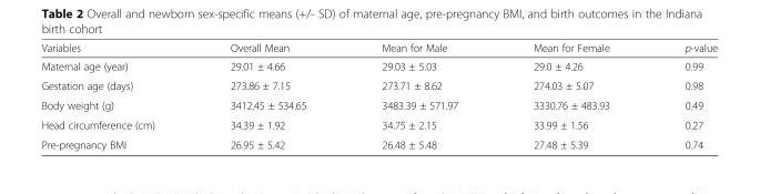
<table><thead><tr><td>Variables</td><td>Overall Mean</td><td>Mean for Male</td><td>Mean for Female</td><td>p-value</td></tr></thead><tbody><tr><td>Maternal age (year)</td><td>29.01 ± 4.66</td><td>29.03 ± 5.03</td><td>29.0 ± 4.26</td><td>0.99</td></tr><tr><td>Gestation age (days)</td><td>273.86 ± 7.15</td><td>273.71 ± 8.62</td><td>274.03 ± 5.07</td><td>0.98</td></tr><tr><td>Body weight (g)</td><td>3412.45 ± 534.65</td><td>3483.39 ± 571.97</td><td>3330.76 ± 483.93</td><td>0.49</td></tr><tr><td>Head circumference (cm)</td><td>34.39 ± 1.92</td><td>34.75 ± 2.15</td><td>33.99 ± 1.56</td><td>0.27</td></tr><tr><td>Pre-pregnancy BMI</td><td>26.95 ± 5.42</td><td>26.48 ± 5.48</td><td>27.48 ± 5.39</td><td>0.74</td></tr></tbody></table>